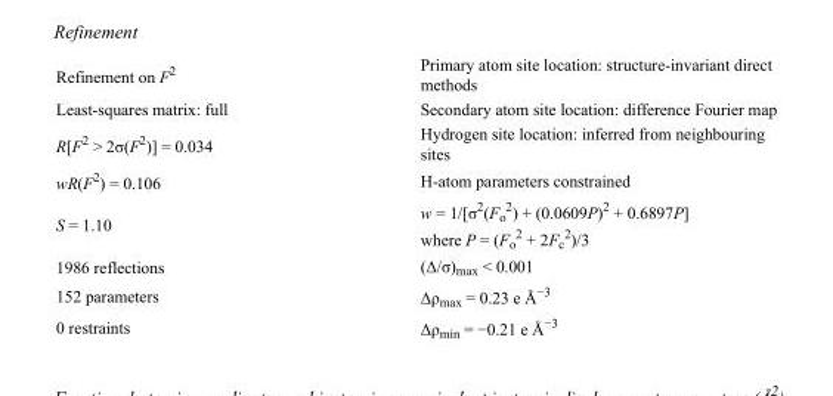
<table><tbody><tr><td>Refinement on F<sup>2</sup></td><td>Primary atom site location: structure-invariant direct methods</td></tr><tr><td>Least-squares matrix: full</td><td>Secondary atom site location: difference Fourier map</td></tr><tr><td>R[F<sup>2</sup> &gt; 2σ(F<sup>2</sup>)] = 0.034</td><td>Hydrogen site location: inferred from neighbouring sites</td></tr><tr><td>wR(F<sup>2</sup>) = 0.106</td><td>H-atom parameters constrained</td></tr><tr><td>S = 1.10</td><td>w = 1/[σ<sup>2</sup>(F<sub>o</sub> <sup>2</sup>) + (0.0609P)<sup>2</sup> + 0.6897P] where P = (F<sub>o</sub> <sup>2</sup> + 2F<sub>c</sub> <sup>2</sup>)/3</td></tr><tr><td>1986 reflections</td><td>(Δ/σ)<sub>max</sub> &lt; 0.001</td></tr><tr><td>152 parameters</td><td>Δρ<sub>max</sub> = 0.23 e Å<sup>−3</sup></td></tr><tr><td>0 restraints</td><td>Δρ<sub>min</sub> = −0.21 e Å<sup>−3</sup></td></tr></tbody></table>